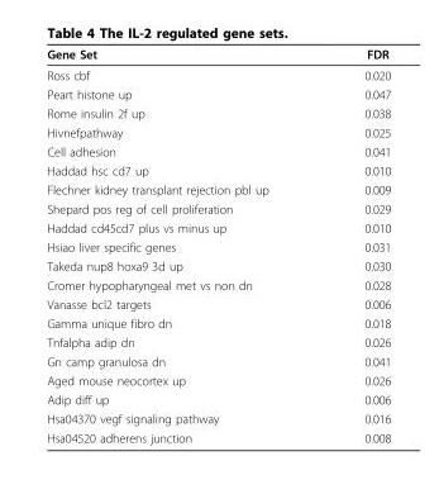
<table><thead><tr><td>Gene Set</td><td>FDR</td></tr></thead><tbody><tr><td>Ross cbf</td><td>0.020</td></tr><tr><td>Peart histone up</td><td>0.047</td></tr><tr><td>Rome insulin 2f up</td><td>0.038</td></tr><tr><td>Hivnefpathway</td><td>0.025</td></tr><tr><td>Cell adhesion</td><td>0.041</td></tr><tr><td>Haddad hsc cd7 up</td><td>0.010</td></tr><tr><td>Flechner kidney transplant rejection pbl up</td><td>0.009</td></tr><tr><td>Shepard pos reg of cell proliferation</td><td>0.029</td></tr><tr><td>Haddad cd45cd7 plus vs minus up</td><td>0.010</td></tr><tr><td>Hsiao liver specific genes</td><td>0.031</td></tr><tr><td>Takeda nup8 hoxa9 3d up</td><td>0.030</td></tr><tr><td>Cromer hypopharyngeal met vs non dn</td><td>0.028</td></tr><tr><td>Vanasse bcl2 targets</td><td>0.006</td></tr><tr><td>Gamma unique fibro dn</td><td>0.018</td></tr><tr><td>Tnfalpha adip dn</td><td>0.026</td></tr><tr><td>Gn camp granulosa dn</td><td>0.041</td></tr><tr><td>Aged mouse neocortex up</td><td>0.026</td></tr><tr><td>Adip diff up</td><td>0.006</td></tr><tr><td>Hsa04370 vegf signaling pathway</td><td>0.016</td></tr><tr><td>Hsa04520 adherens junction</td><td>0.008</td></tr></tbody></table>